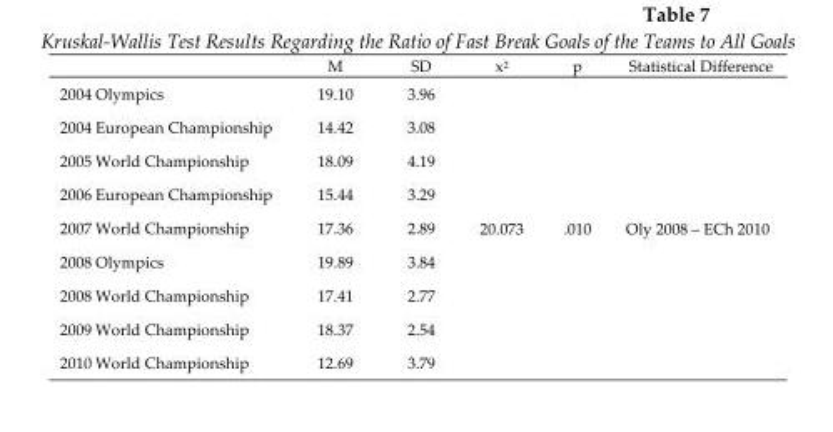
<table><thead><tr><td></td><td>M</td><td>SD</td><td>x<sup>2</sup></td><td>p</td><td>Statistical Difference</td></tr></thead><tbody><tr><td>2004 Olympics</td><td>19.10</td><td>3.96</td><td rowspan="9">20.073</td><td rowspan="9">.010</td><td rowspan="9">Oly 2008 – ECh 2010</td></tr><tr><td>2004 European Championship</td><td>14.42</td><td>3.08</td></tr><tr><td>2005 World Championship</td><td>18.09</td><td>4.19</td></tr><tr><td>2006 European Championship</td><td>15.44</td><td>3.29</td></tr><tr><td>2007 World Championship</td><td>17.36</td><td>2.89</td></tr><tr><td>2008 Olympics</td><td>19.89</td><td>3.84</td></tr><tr><td>2008 World Championship</td><td>17.41</td><td>2.77</td></tr><tr><td>2009 World Championship</td><td>18.37</td><td>2.54</td></tr><tr><td>2010 World Championship</td><td>12.69</td><td>3.79</td></tr></tbody></table>